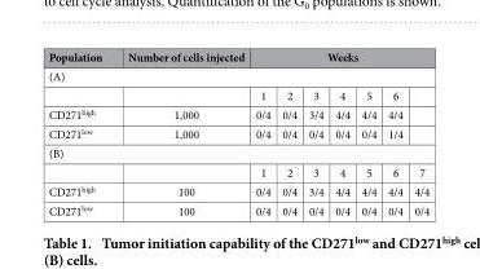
<table><thead><tr><td>Population</td><td>Number of cells injected</td><td colspan="7">Weeks</td></tr><tr><td colspan="9">(A)</td></tr><tr><td></td><td></td><td>1</td><td>2</td><td>3</td><td>4</td><td>5</td><td>6</td><td></td></tr></thead><tbody><tr><td>CD271<sup>high</sup></td><td>1,000</td><td>0/4</td><td>0/4</td><td>3/4</td><td>4/4</td><td>4/4</td><td>4/4</td><td></td></tr><tr><td>CD271<sup>low</sup></td><td>1,000</td><td>0/4</td><td>0/4</td><td>0/4</td><td>0/4</td><td>0/4</td><td>1/4</td><td></td></tr><tr><td colspan="9">(B)</td></tr><tr><td></td><td></td><td>1</td><td>2</td><td>3</td><td>4</td><td>5</td><td>6</td><td>7</td></tr><tr><td>CD271<sup>high</sup></td><td>100</td><td>0/4</td><td>0/4</td><td>3/4</td><td>4/4</td><td>4/4</td><td>4/4</td><td>4/4</td></tr><tr><td>CD271<sup>low</sup></td><td>100</td><td>0/4</td><td>0/4</td><td>0/4</td><td>0/4</td><td>0/4</td><td>0/4</td><td>0/4</td></tr></tbody></table>